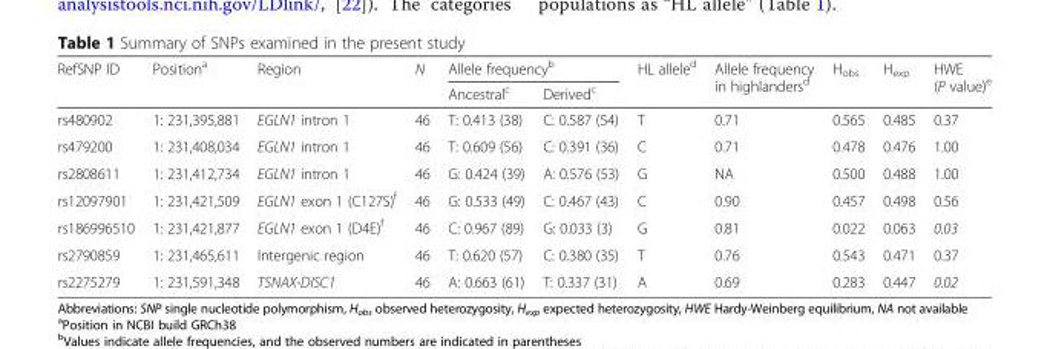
<table><thead><tr><td rowspan="2">RefSNP ID</td><td rowspan="2">Position<sup>a</sup></td><td rowspan="2">Region</td><td rowspan="2">N</td><td colspan="2">Allele frequency<sup>b</sup></td><td rowspan="2">HL allele<sup>d</sup></td><td rowspan="2">Allele frequency in highlanders<sup>d</sup></td><td rowspan="2">H<sub>obs</sub></td><td rowspan="2">H<sub>exp</sub></td><td rowspan="2">HWE (P value)<sup>e</sup></td></tr><tr><td>Ancestral<sup>c</sup></td><td>Derived<sup>c</sup></td></tr></thead><tbody><tr><td>rs480902</td><td>1: 231,395,881</td><td>EGLN1 intron 1</td><td>46</td><td>T: 0.413 (38)</td><td>C: 0.587 (54)</td><td>T</td><td>0.71</td><td>0.565</td><td>0.485</td><td>0.37</td></tr><tr><td>rs479200</td><td>1: 231,408,034</td><td>EGLN1 intron 1</td><td>46</td><td>T: 0.609 (56)</td><td>C: 0.391 (36)</td><td>C</td><td>0.71</td><td>0.478</td><td>0.476</td><td>1.00</td></tr><tr><td>rs2808611</td><td>1: 231,412,734</td><td>EGLN1 intron 1</td><td>46</td><td>G: 0.424 (39)</td><td>A: 0.576 (53)</td><td>G</td><td>NA</td><td>0.500</td><td>0.488</td><td>1.00</td></tr><tr><td>rs12097901</td><td>1: 231,421,509</td><td>EGLN1 exon 1 (C127S)<sup>f</sup></td><td>46</td><td>G: 0.533 (49)</td><td>C: 0.467 (43)</td><td>C</td><td>0.90</td><td>0.457</td><td>0.498</td><td>0.56</td></tr><tr><td>rs186996510</td><td>1: 231,421,877</td><td>EGLN1 exon 1 (D4E)<sup>f</sup></td><td>46</td><td>C: 0.967 (89)</td><td>G: 0.033 (3)</td><td>G</td><td>0.81</td><td>0.022</td><td>0.063</td><td>0.03</td></tr><tr><td>rs2790859</td><td>1: 231,465,611</td><td>Intergenic region</td><td>46</td><td>T: 0.620 (57)</td><td>C: 0.380 (35)</td><td>T</td><td>0.76</td><td>0.543</td><td>0.471</td><td>0.37</td></tr><tr><td>rs2275279</td><td>1: 231,591,348</td><td>TSNAX-DISC1</td><td>46</td><td>A: 0.663 (61)</td><td>T: 0.337 (31)</td><td>A</td><td>0.69</td><td>0.283</td><td>0.447</td><td>0.02</td></tr></tbody></table>